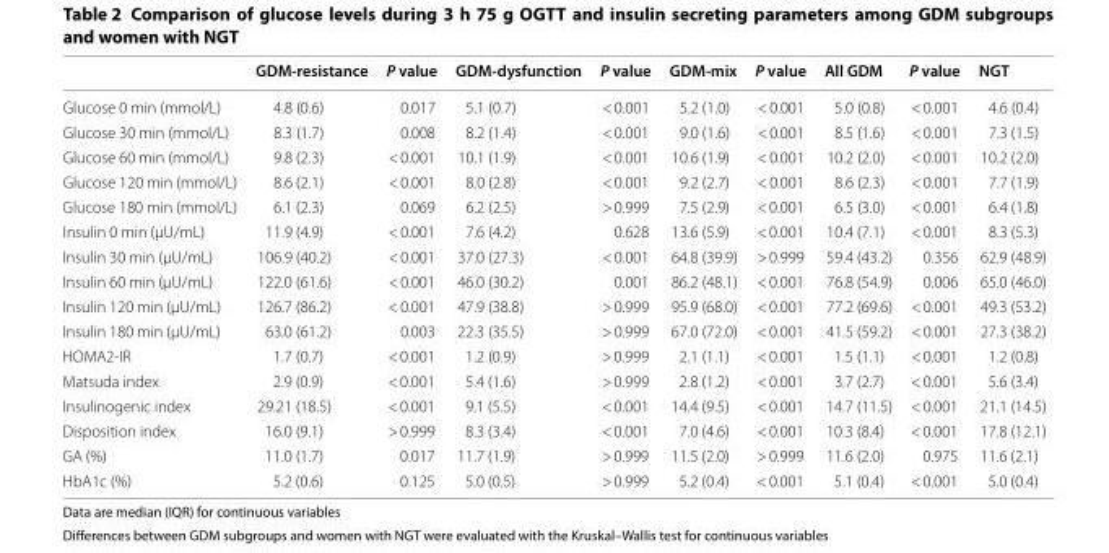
<table><thead><tr><td></td><td>GDM-resistance</td><td>P value</td><td>GDM-dysfunction</td><td>P value</td><td>GDM-mix</td><td>P value</td><td>All GDM</td><td>P value</td><td>NGT</td></tr></thead><tbody><tr><td>Glucose 0 min (mmol/L)</td><td>4.8 (0.6)</td><td>0.017</td><td>5.1 (0.7)</td><td>&lt; 0.001</td><td>5.2 (1.0)</td><td>&lt; 0.001</td><td>5.0 (0.8)</td><td>&lt; 0.001</td><td>4.6 (0.4)</td></tr><tr><td>Glucose 30 min (mmol/L)</td><td>8.3 (1.7)</td><td>0.008</td><td>8.2 (1.4)</td><td>&lt; 0.001</td><td>9.0 (1.6)</td><td>&lt; 0.001</td><td>8.5 (1.6)</td><td>&lt; 0.001</td><td>7.3 (1.5)</td></tr><tr><td>Glucose 60 min (mmol/L)</td><td>9.8 (2.3)</td><td>&lt; 0.001</td><td>10.1 (1.9)</td><td>&lt; 0.001</td><td>10.6 (1.9)</td><td>&lt; 0.001</td><td>10.2 (2.0)</td><td>&lt; 0.001</td><td>10.2 (2.0)</td></tr><tr><td>Glucose 120 min (mmol/L)</td><td>8.6 (2.1)</td><td>&lt; 0.001</td><td>8.0 (2.8)</td><td>&lt; 0.001</td><td>9.2 (2.7)</td><td>&lt; 0.001</td><td>8.6 (2.3)</td><td>&lt; 0.001</td><td>7.7 (1.9)</td></tr><tr><td>Glucose 180 min (mmol/L)</td><td>6.1 (2.3)</td><td>0.069</td><td>6.2 (2.5)</td><td>&gt; 0.999</td><td>7.5 (2.9)</td><td>&lt; 0.001</td><td>6.5 (3.0)</td><td>&lt; 0.001</td><td>6.4 (1.8)</td></tr><tr><td>Insulin 0 min (μU/mL)</td><td>11.9 (4.9)</td><td>&lt; 0.001</td><td>7.6 (4.2)</td><td>0.628</td><td>13.6 (5.9)</td><td>&lt; 0.001</td><td>10.4 (7.1)</td><td>&lt; 0.001</td><td>8.3 (5.3)</td></tr><tr><td>Insulin 30 min (μU/mL)</td><td>106.9 (40.2)</td><td>&lt; 0.001</td><td>37.0 (27.3)</td><td>&lt; 0.001</td><td>64.8 (39.9)</td><td>&gt; 0.999</td><td>59.4 (43.2)</td><td>0.356</td><td>62.9 (48.9)</td></tr><tr><td>Insulin 60 min (μU/mL)</td><td>122.0 (61.6)</td><td>&lt; 0.001</td><td>46.0 (30.2)</td><td>0.001</td><td>86.2 (48.1)</td><td>&lt; 0.001</td><td>76.8 (54.9)</td><td>0.006</td><td>65.0 (46.0)</td></tr><tr><td>Insulin 120 min (μU/mL)</td><td>126.7 (86.2)</td><td>&lt; 0.001</td><td>47.9 (38.8)</td><td>&gt; 0.999</td><td>95.9 (68.0)</td><td>&lt; 0.001</td><td>77.2 (69.6)</td><td>&lt; 0.001</td><td>49.3 (53.2)</td></tr><tr><td>Insulin 180 min (μU/mL)</td><td>63.0 (61.2)</td><td>0.003</td><td>22.3 (35.5)</td><td>&gt; 0.999</td><td>67.0 (72.0)</td><td>&lt; 0.001</td><td>41.5 (59.2)</td><td>&lt; 0.001</td><td>27.3 (38.2)</td></tr><tr><td>HOMA2-IR</td><td>1.7 (0.7)</td><td>&lt; 0.001</td><td>1.2 (0.9)</td><td>&gt; 0.999</td><td>2.1 (1.1)</td><td>&lt; 0.001</td><td>1.5 (1.1)</td><td>&lt; 0.001</td><td>1.2 (0.8)</td></tr><tr><td>Matsuda index</td><td>2.9 (0.9)</td><td>&lt; 0.001</td><td>5.4 (1.6)</td><td>&gt; 0.999</td><td>2.8 (1.2)</td><td>&lt; 0.001</td><td>3.7 (2.7)</td><td>&lt; 0.001</td><td>5.6 (3.4)</td></tr><tr><td>Insulinogenic index</td><td>29.21 (18.5)</td><td>&lt; 0.001</td><td>9.1 (5.5)</td><td>&lt; 0.001</td><td>14.4 (9.5)</td><td>&lt; 0.001</td><td>14.7 (11.5)</td><td>&lt; 0.001</td><td>21.1 (14.5)</td></tr><tr><td>Disposition index</td><td>16.0 (9.1)</td><td>&gt; 0.999</td><td>8.3 (3.4)</td><td>&lt; 0.001</td><td>7.0 (4.6)</td><td>&lt; 0.001</td><td>10.3 (8.4)</td><td>&lt; 0.001</td><td>17.8 (12.1)</td></tr><tr><td>GA (%)</td><td>11.0 (1.7)</td><td>0.017</td><td>11.7 (1.9)</td><td>&gt; 0.999</td><td>11.5 (2.0)</td><td>&gt; 0.999</td><td>11.6 (2.0)</td><td>0.975</td><td>11.6 (2.1)</td></tr><tr><td>HbA1c (%)</td><td>5.2 (0.6)</td><td>0.125</td><td>5.0 (0.5)</td><td>&gt; 0.999</td><td>5.2 (0.4)</td><td>&lt; 0.001</td><td>5.1 (0.4)</td><td>&lt; 0.001</td><td>5.0 (0.4)</td></tr></tbody></table>